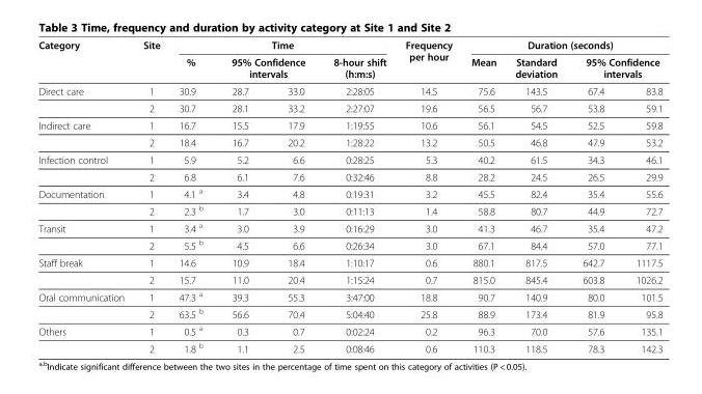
<table><thead><tr><td rowspan="3">Category Direct care</td><td rowspan="3">Site 1</td><td colspan="4">Time</td><td rowspan="3">Frequency per hour 14.5</td><td colspan="4">Duration (seconds)</td></tr><tr><td rowspan="2">% 30.9</td><td colspan="2">95% Confidence intervals</td><td rowspan="2">8-hour shift (h:m:s) 2:28:05</td><td rowspan="2">Mean 75.6</td><td rowspan="2">Standard deviation 143.5</td><td colspan="2">95% Confidence intervals</td></tr><tr><td>28.7</td><td>33.0</td><td>67.4</td><td>83.8</td></tr></thead><tbody><tr><td></td><td>2</td><td>30.7</td><td>28.1</td><td>33.2</td><td>2:27:07</td><td>19.6</td><td>56.5</td><td>56.7</td><td>53.8</td><td>59.1</td></tr><tr><td rowspan="2">Indirect care</td><td>1</td><td>16.7</td><td>15.5</td><td>17.9</td><td>1:19:55</td><td>10.6</td><td>56.1</td><td>54.5</td><td>52.5</td><td>59.8</td></tr><tr><td>2</td><td>18.4</td><td>16.7</td><td>20.2</td><td>1:28:22</td><td>13.2</td><td>50.5</td><td>46.8</td><td>47.9</td><td>53.2</td></tr><tr><td rowspan="2">Infection control</td><td>1</td><td>5.9</td><td>5.2</td><td>6.6</td><td>0:28:25</td><td>5.3</td><td>40.2</td><td>61.5</td><td>34.3</td><td>46.1</td></tr><tr><td>2</td><td>6.8</td><td>6.1</td><td>7.6</td><td>0:32:46</td><td>8.8</td><td>28.2</td><td>24.5</td><td>26.5</td><td>29.9</td></tr><tr><td rowspan="2">Documentation</td><td>1</td><td>4.1 <sup>a</sup></td><td>3.4</td><td>4.8</td><td>0:19:31</td><td>3.2</td><td>45.5</td><td>82.4</td><td>35.4</td><td>55.6</td></tr><tr><td>2</td><td>2.3 <sup>b</sup></td><td>1.7</td><td>3.0</td><td>0:11:13</td><td>1.4</td><td>58.8</td><td>80.7</td><td>44.9</td><td>72.7</td></tr><tr><td rowspan="2">Transit</td><td>1</td><td>3.4 <sup>a</sup></td><td>3.0</td><td>3.9</td><td>0:16:29</td><td>3.0</td><td>41.3</td><td>46.7</td><td>35.4</td><td>47.2</td></tr><tr><td>2</td><td>5.5 <sup>b</sup></td><td>4.5</td><td>6.6</td><td>0:26:34</td><td>3.0</td><td>67.1</td><td>84.4</td><td>57.0</td><td>77.1</td></tr><tr><td rowspan="2">Staff break</td><td>1</td><td>14.6</td><td>10.9</td><td>18.4</td><td>1:10:17</td><td>0.6</td><td>880.1</td><td>817.5</td><td>642.7</td><td>1117.5</td></tr><tr><td>2</td><td>15.7</td><td>11.0</td><td>20.4</td><td>1:15:24</td><td>0.7</td><td>815.0</td><td>845.4</td><td>603.8</td><td>1026.2</td></tr><tr><td rowspan="2">Oral communication</td><td>1</td><td>47.3 <sup>a</sup></td><td>39.3</td><td>55.3</td><td>3:47:00</td><td>18.8</td><td>90.7</td><td>140.9</td><td>80.0</td><td>101.5</td></tr><tr><td>2</td><td>63.5 <sup>b</sup></td><td>56.6</td><td>70.4</td><td>5:04:40</td><td>25.8</td><td>88.9</td><td>173.4</td><td>81.9</td><td>95.8</td></tr><tr><td rowspan="2">Others</td><td>1</td><td>0.5 <sup>a</sup></td><td>0.3</td><td>0.7</td><td>0:02:24</td><td>0.2</td><td>96.3</td><td>70.0</td><td>57.6</td><td>135.1</td></tr><tr><td>2</td><td>1.8 <sup>b</sup></td><td>1.1</td><td>2.5</td><td>0:08:46</td><td>0.6</td><td>110.3</td><td>118.5</td><td>78.3</td><td>142.3</td></tr></tbody></table>